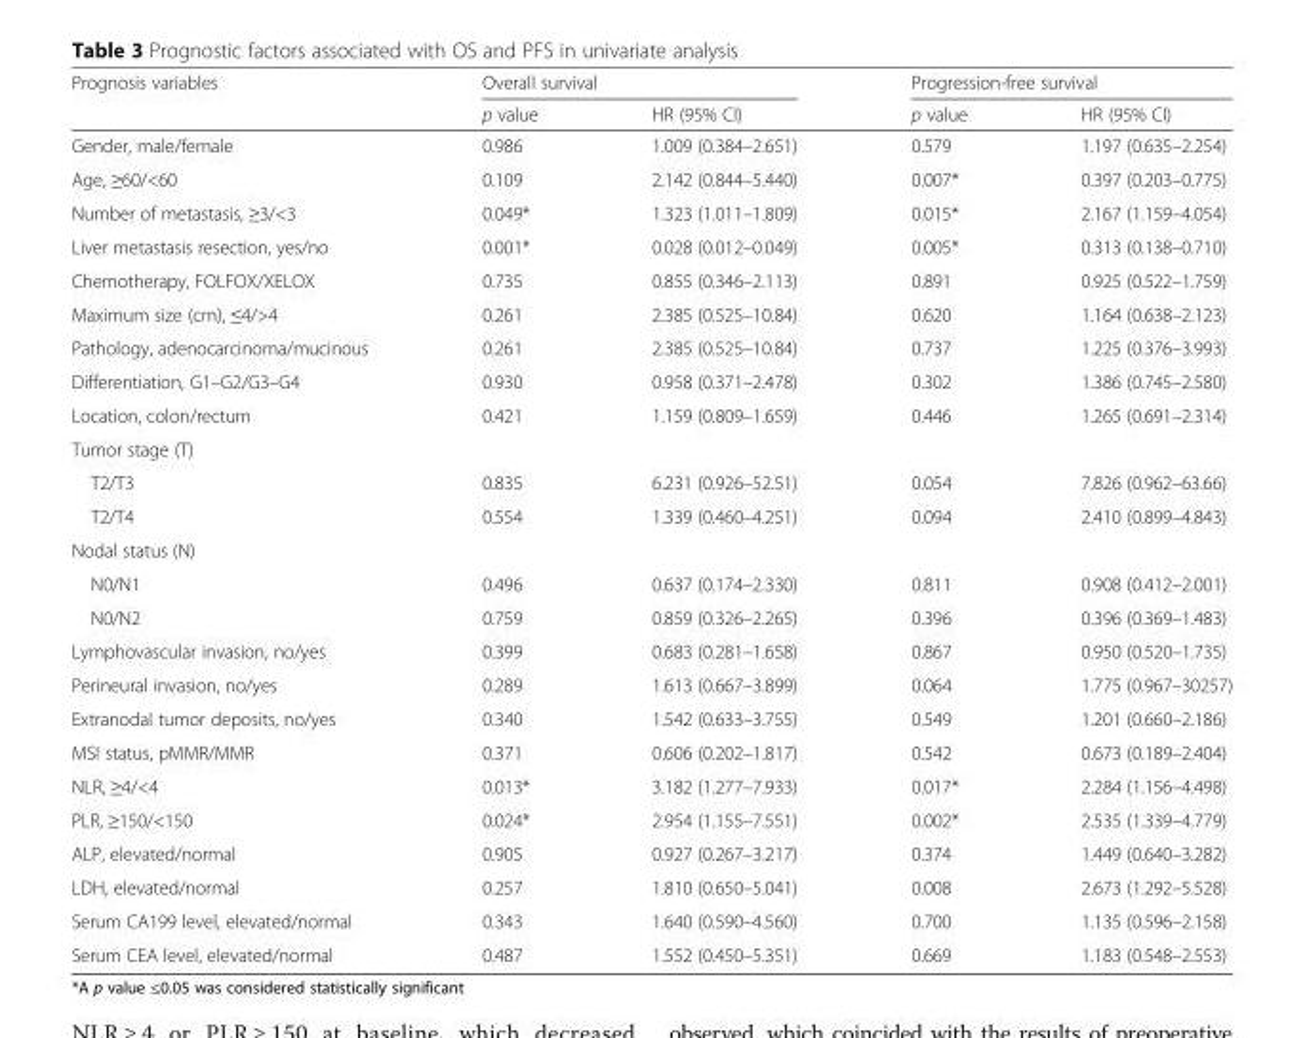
<table><thead><tr><td rowspan="2">Prognosis variables</td><td colspan="2">Overall survival</td><td colspan="2">Progression-free survival</td></tr><tr><td>p value</td><td>HR (95% CI)</td><td>p value</td><td>HR (95% CI)</td></tr></thead><tbody><tr><td>Gender, male/female</td><td>0.986</td><td>1.009 (0.384–2.651)</td><td>0.579</td><td>1.197 (0.635–2.254)</td></tr><tr><td>Age, ≥60/&lt;60</td><td>0.109</td><td>2.142 (0.844–5.440)</td><td>0.007*</td><td>0.397 (0.203–0.775)</td></tr><tr><td>Number of metastasis, ≥3/&lt;3</td><td>0.049*</td><td>1.323 (1.011–1.809)</td><td>0.015*</td><td>2.167 (1.159–4.054)</td></tr><tr><td>Liver metastasis resection, yes/no</td><td>0.001*</td><td>0.028 (0.012–0.049)</td><td>0.005*</td><td>0.313 (0.138–0.710)</td></tr><tr><td>Chemotherapy, FOLFOX/XELOX</td><td>0.735</td><td>0.855 (0.346–2.113)</td><td>0.891</td><td>0.925 (0.522–1.759)</td></tr><tr><td>Maximum size (cm), ≤4/&gt;4</td><td>0.261</td><td>2.385 (0.525–10.84)</td><td>0.620</td><td>1.164 (0.638–2.123)</td></tr><tr><td>Pathology, adenocarcinoma/mucinous</td><td>0.261</td><td>2.385 (0.525–10.84)</td><td>0.737</td><td>1.225 (0.376–3.993)</td></tr><tr><td>Differentiation, G1–G2/G3–G4</td><td>0.930</td><td>0.958 (0.371–2.478)</td><td>0.302</td><td>1.386 (0.745–2.580)</td></tr><tr><td>Location, colon/rectum</td><td>0.421</td><td>1.159 (0.809–1.659)</td><td>0.446</td><td>1.265 (0.691–2.314)</td></tr><tr><td colspan="5">Tumor stage (T)</td></tr><tr><td>T2/T3</td><td>0.835</td><td>6.231 (0.926–52.51)</td><td>0.054</td><td>7.826 (0.962–63.66)</td></tr><tr><td>T2/T4</td><td>0.554</td><td>1.339 (0.460–4.251)</td><td>0.094</td><td>2.410 (0.899–4.843)</td></tr><tr><td colspan="5">Nodal status (N)</td></tr><tr><td>N0/N1</td><td>0.496</td><td>0.637 (0.174–2.330)</td><td>0.811</td><td>0.908 (0.412–2.001)</td></tr><tr><td>N0/N2</td><td>0.759</td><td>0.859 (0.326–2.265)</td><td>0.396</td><td>0.396 (0.369–1.483)</td></tr><tr><td>Lymphovascular invasion, no/yes</td><td>0.399</td><td>0.683 (0.281–1.658)</td><td>0.867</td><td>0.950 (0.520–1.735)</td></tr><tr><td>Perineural invasion, no/yes</td><td>0.289</td><td>1.613 (0.667–3.899)</td><td>0.064</td><td>1.775 (0.967–30257)</td></tr><tr><td>Extranodal tumor deposits, no/yes</td><td>0.340</td><td>1.542 (0.633–3.755)</td><td>0.549</td><td>1.201 (0.660–2.186)</td></tr><tr><td>MSI status, pMMR/MMR</td><td>0.371</td><td>0.606 (0.202–1.817)</td><td>0.542</td><td>0.673 (0.189–2.404)</td></tr><tr><td>NLR, ≥4/&lt;4</td><td>0.013*</td><td>3.182 (1.277–7.933)</td><td>0.017*</td><td>2.284 (1.156–4.498)</td></tr><tr><td>PLR, ≥150/&lt;150</td><td>0.024*</td><td>2.954 (1.155–7.551)</td><td>0.002*</td><td>2.535 (1.339–4.779)</td></tr><tr><td>ALP, elevated/normal</td><td>0.905</td><td>0.927 (0.267–3.217)</td><td>0.374</td><td>1.449 (0.640–3.282)</td></tr><tr><td>LDH, elevated/normal</td><td>0.257</td><td>1.810 (0.650–5.041)</td><td>0.008</td><td>2.673 (1.292–5.528)</td></tr><tr><td>Serum CA199 level, elevated/normal</td><td>0.343</td><td>1.640 (0.590–4.560)</td><td>0.700</td><td>1.135 (0.596–2.158)</td></tr><tr><td>Serum CEA level, elevated/normal</td><td>0.487</td><td>1.552 (0.450–5.351)</td><td>0.669</td><td>1.183 (0.548–2.553)</td></tr></tbody></table>